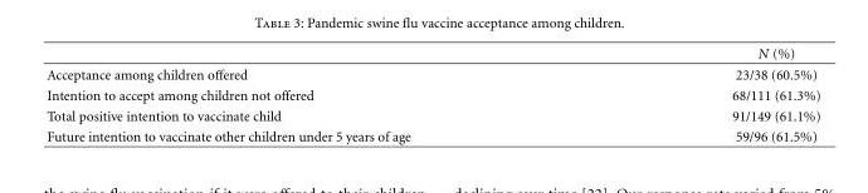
<table><thead><tr><td></td><td>N (%)</td></tr></thead><tbody><tr><td>Acceptance among children offered</td><td>23/38 (60.5%)</td></tr><tr><td>Intention to accept among children not offered</td><td>68/111 (61.3%)</td></tr><tr><td>Total positive intention to vaccinate child</td><td>91/149 (61.1%)</td></tr><tr><td>Future intention to vaccinate other children under 5 years of age</td><td>59/96 (61.5%)</td></tr></tbody></table>